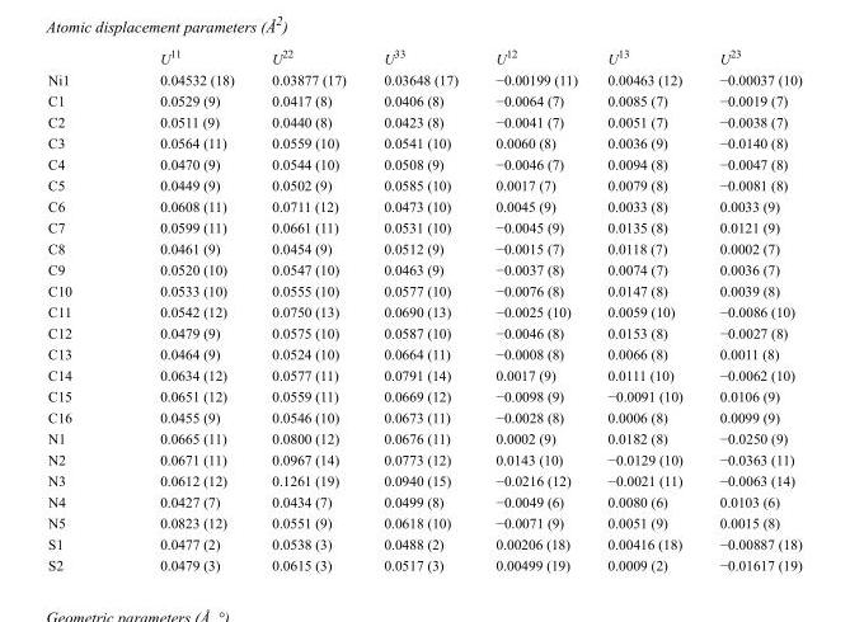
<table><thead><tr><td></td><td>U<sup>11</sup></td><td>U<sup>22</sup></td><td>U<sup>33</sup></td><td>U<sup>12</sup></td><td>U<sup>13</sup></td><td>U<sup>23</sup></td></tr></thead><tbody><tr><td>Ni1</td><td>0.04532 (18)</td><td>0.03877 (17)</td><td>0.03648 (17)</td><td>−0.00199 (11)</td><td>0.00463 (12)</td><td>−0.00037 (10)</td></tr><tr><td>C1</td><td>0.0529 (9)</td><td>0.0417 (8)</td><td>0.0406 (8)</td><td>−0.0064 (7)</td><td>0.0085 (7)</td><td>−0.0019 (7)</td></tr><tr><td>C2</td><td>0.0511 (9)</td><td>0.0440 (8)</td><td>0.0423 (8)</td><td>−0.0041 (7)</td><td>0.0051 (7)</td><td>−0.0038 (7)</td></tr><tr><td>C3</td><td>0.0564 (11)</td><td>0.0559 (10)</td><td>0.0541 (10)</td><td>0.0060 (8)</td><td>0.0036 (9)</td><td>−0.0140 (8)</td></tr><tr><td>C4</td><td>0.0470 (9)</td><td>0.0544 (10)</td><td>0.0508 (9)</td><td>−0.0046 (7)</td><td>0.0094 (8)</td><td>−0.0047 (8)</td></tr><tr><td>C5</td><td>0.0449 (9)</td><td>0.0502 (9)</td><td>0.0585 (10)</td><td>0.0017 (7)</td><td>0.0079 (8)</td><td>−0.0081 (8)</td></tr><tr><td>C6</td><td>0.0608 (11)</td><td>0.0711 (12)</td><td>0.0473 (10)</td><td>0.0045 (9)</td><td>0.0033 (8)</td><td>0.0033 (9)</td></tr><tr><td>C7</td><td>0.0599 (11)</td><td>0.0661 (11)</td><td>0.0531 (10)</td><td>−0.0045 (9)</td><td>0.0135 (8)</td><td>0.0121 (9)</td></tr><tr><td>C8</td><td>0.0461 (9)</td><td>0.0454 (9)</td><td>0.0512 (9)</td><td>−0.0015 (7)</td><td>0.0118 (7)</td><td>0.0002 (7)</td></tr><tr><td>C9</td><td>0.0520 (10)</td><td>0.0547 (10)</td><td>0.0463 (9)</td><td>−0.0037 (8)</td><td>0.0074 (7)</td><td>0.0036 (7)</td></tr><tr><td>C10</td><td>0.0533 (10)</td><td>0.0555 (10)</td><td>0.0577 (10)</td><td>−0.0076 (8)</td><td>0.0147 (8)</td><td>0.0039 (8)</td></tr><tr><td>C11</td><td>0.0542 (12)</td><td>0.0750 (13)</td><td>0.0690 (13)</td><td>−0.0025 (10)</td><td>0.0059 (10)</td><td>−0.0086 (10)</td></tr><tr><td>C12</td><td>0.0479 (9)</td><td>0.0575 (10)</td><td>0.0587 (10)</td><td>−0.0046 (8)</td><td>0.0153 (8)</td><td>−0.0027 (8)</td></tr><tr><td>C13</td><td>0.0464 (9)</td><td>0.0524 (10)</td><td>0.0664 (11)</td><td>−0.0008 (8)</td><td>0.0066 (8)</td><td>0.0011 (8)</td></tr><tr><td>C14</td><td>0.0634 (12)</td><td>0.0577 (11)</td><td>0.0791 (14)</td><td>0.0017 (9)</td><td>0.0111 (10)</td><td>−0.0062 (10)</td></tr><tr><td>C15</td><td>0.0651 (12)</td><td>0.0559 (11)</td><td>0.0669 (12)</td><td>−0.0098 (9)</td><td>−0.0091 (10)</td><td>0.0106 (9)</td></tr><tr><td>C16</td><td>0.0455 (9)</td><td>0.0546 (10)</td><td>0.0673 (11)</td><td>−0.0028 (8)</td><td>0.0006 (8)</td><td>0.0099 (9)</td></tr><tr><td>N1</td><td>0.0665 (11)</td><td>0.0800 (12)</td><td>0.0676 (11)</td><td>0.0002 (9)</td><td>0.0182 (8)</td><td>−0.0250 (9)</td></tr><tr><td>N2</td><td>0.0671 (11)</td><td>0.0967 (14)</td><td>0.0773 (12)</td><td>0.0143 (10)</td><td>−0.0129 (10)</td><td>−0.0363 (11)</td></tr><tr><td>N3</td><td>0.0612 (12)</td><td>0.1261 (19)</td><td>0.0940 (15)</td><td>−0.0216 (12)</td><td>−0.0021 (11)</td><td>−0.0063 (14)</td></tr><tr><td>N4</td><td>0.0427 (7)</td><td>0.0434 (7)</td><td>0.0499 (8)</td><td>−0.0049 (6)</td><td>0.0080 (6)</td><td>0.0103 (6)</td></tr><tr><td>N5</td><td>0.0823 (12)</td><td>0.0551 (9)</td><td>0.0618 (10)</td><td>−0.0071 (9)</td><td>0.0051 (9)</td><td>0.0015 (8)</td></tr><tr><td>S1</td><td>0.0477 (2)</td><td>0.0538 (3)</td><td>0.0488 (2)</td><td>0.00206 (18)</td><td>0.00416 (18)</td><td>−0.00887 (18)</td></tr><tr><td>S2</td><td>0.0479 (3)</td><td>0.0615 (3)</td><td>0.0517 (3)</td><td>0.00499 (19)</td><td>0.0009 (2)</td><td>−0.01617 (19)</td></tr></tbody></table>